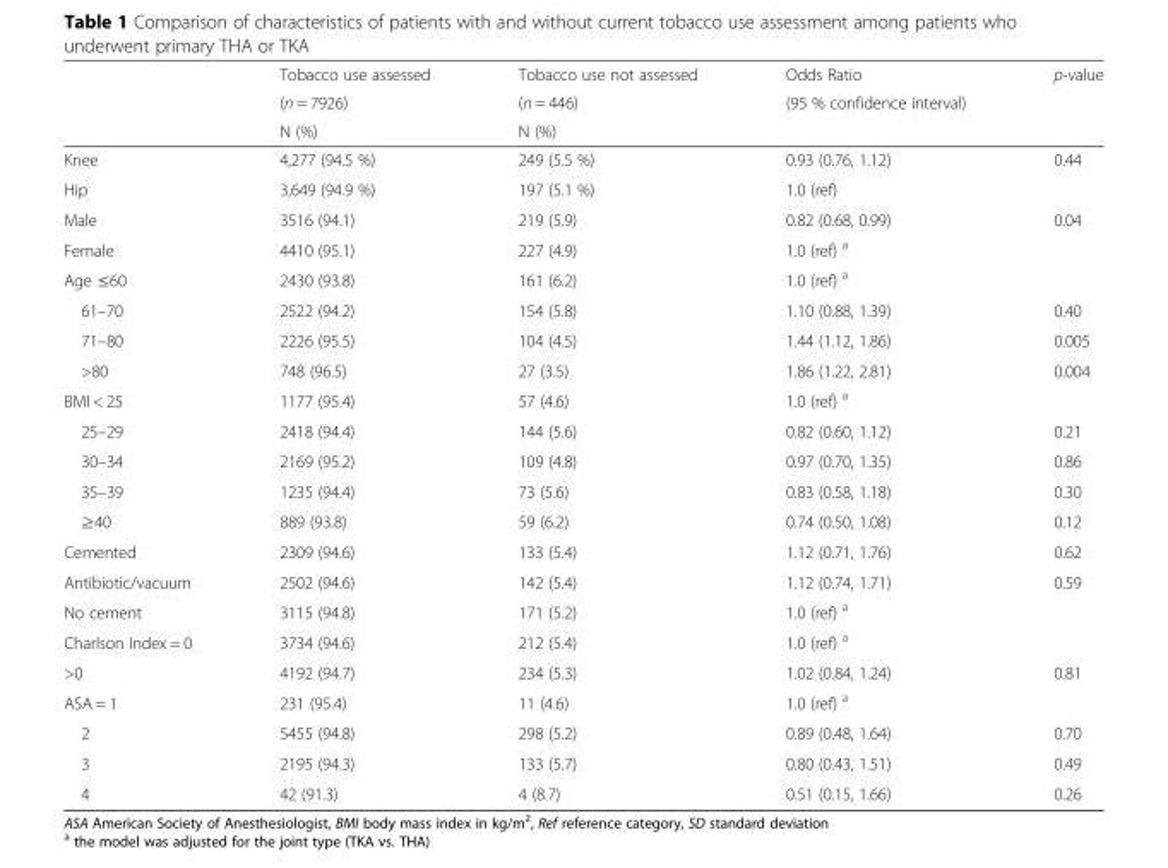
<table><thead><tr><td rowspan="3"></td><td rowspan="3">Tobacco use assessed (n = 7926) N (%)</td><td rowspan="3">Tobacco use not assessed (n = 446) N (%)</td><td rowspan="3">Odds Ratio (95 % confidence interval)</td><td rowspan="3">p-value</td></tr><tr></tr><tr></tr></thead><tbody><tr><td>Knee</td><td>4,277 (94.5 %)</td><td>249 (5.5 %)</td><td>0.93 (0.76, 1.12)</td><td>0.44</td></tr><tr><td>Hip</td><td>3,649 (94.9 %)</td><td>197 (5.1 %)</td><td>1.0 (ref)</td><td></td></tr><tr><td>Male</td><td>3516 (94.1)</td><td>219 (5.9)</td><td>0.82 (0.68, 0.99)</td><td>0.04</td></tr><tr><td>Female</td><td>4410 (95.1)</td><td>227 (4.9)</td><td>1.0 (ref) <sup>a</sup></td><td></td></tr><tr><td>Age ≤60</td><td>2430 (93.8)</td><td>161 (6.2)</td><td>1.0 (ref) <sup>a</sup></td><td></td></tr><tr><td>61–70</td><td>2522 (94.2)</td><td>154 (5.8)</td><td>1.10 (0.88, 1.39)</td><td>0.40</td></tr><tr><td>71–80</td><td>2226 (95.5)</td><td>104 (4.5)</td><td>1.44 (1.12, 1.86)</td><td>0.005</td></tr><tr><td>&gt;80</td><td>748 (96.5)</td><td>27 (3.5)</td><td>1.86 (1.22, 2.81)</td><td>0.004</td></tr><tr><td>BMI &lt; 25</td><td>1177 (95.4)</td><td>57 (4.6)</td><td>1.0 (ref) <sup>a</sup></td><td></td></tr><tr><td>25–29</td><td>2418 (94.4)</td><td>144 (5.6)</td><td>0.82 (0.60, 1.12)</td><td>0.21</td></tr><tr><td>30–34</td><td>2169 (95.2)</td><td>109 (4.8)</td><td>0.97 (0.70, 1.35)</td><td>0.86</td></tr><tr><td>35–39</td><td>1235 (94.4)</td><td>73 (5.6)</td><td>0.83 (0.58, 1.18)</td><td>0.30</td></tr><tr><td>≥40</td><td>889 (93.8)</td><td>59 (6.2)</td><td>0.74 (0.50, 1.08)</td><td>0.12</td></tr><tr><td>Cemented</td><td>2309 (94.6)</td><td>133 (5.4)</td><td>1.12 (0.71, 1.76)</td><td>0.62</td></tr><tr><td>Antibiotic/vacuum</td><td>2502 (94.6)</td><td>142 (5.4)</td><td>1.12 (0.74, 1.71)</td><td>0.59</td></tr><tr><td>No cement</td><td>3115 (94.8)</td><td>171 (5.2)</td><td>1.0 (ref) <sup>a</sup></td><td></td></tr><tr><td>Charlson Index = 0</td><td>3734 (94.6)</td><td>212 (5.4)</td><td>1.0 (ref) <sup>a</sup></td><td></td></tr><tr><td>&gt;0</td><td>4192 (94.7)</td><td>234 (5.3)</td><td>1.02 (0.84, 1.24)</td><td>0.81</td></tr><tr><td>ASA = 1</td><td>231 (95.4)</td><td>11 (4.6)</td><td>1.0 (ref) <sup>a</sup></td><td></td></tr><tr><td>2</td><td>5455 (94.8)</td><td>298 (5.2)</td><td>0.89 (0.48, 1.64)</td><td>0.70</td></tr><tr><td>3</td><td>2195 (94.3)</td><td>133 (5.7)</td><td>0.80 (0.43, 1.51)</td><td>0.49</td></tr><tr><td>4</td><td>42 (91.3)</td><td>4 (8.7)</td><td>0.51 (0.15, 1.66)</td><td>0.26</td></tr></tbody></table>